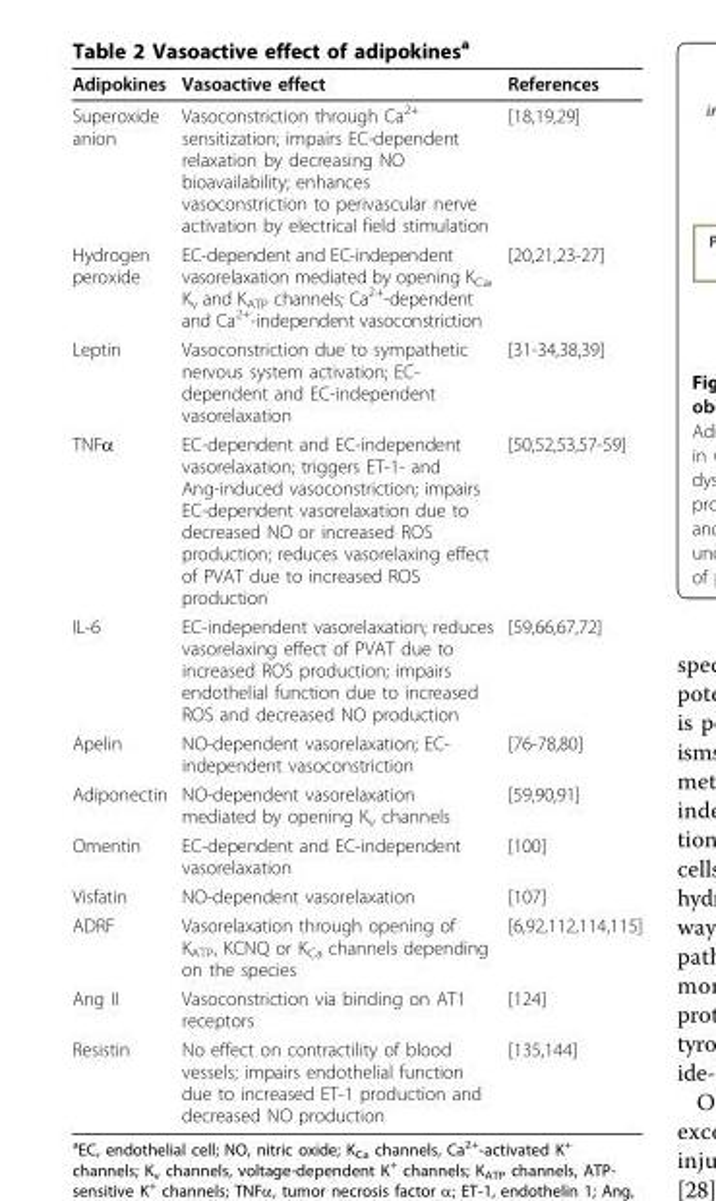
<table><thead><tr><td>Adipokines</td><td>Vasoactive effect</td><td>References</td></tr></thead><tbody><tr><td>Superoxide anion</td><td>Vasoconstriction through Ca<sup>2+</sup> sensitization; impairs EC-dependent relaxation by decreasing NO bioavailability; enhances vasoconstriction to perivascular nerve activation by electrical field stimulation</td><td>[18,19,29]</td></tr><tr><td>Hydrogen peroxide</td><td>EC-dependent and EC-independent vasorelaxation mediated by opening K<sub>Ca</sub>, K<sub>v</sub> and K<sub>ATP</sub> channels; Ca<sup>2+</sup>-dependent and Ca<sup>2+</sup>-independent vasoconstriction</td><td>[20,21,23-27]</td></tr><tr><td>Leptin</td><td>Vasoconstriction due to sympathetic nervous system activation; EC- dependent and EC-independent vasorelaxation</td><td>[31-34,38,39]</td></tr><tr><td>TNFα</td><td>EC-dependent and EC-independent vasorelaxation; triggers ET-1- and Ang-induced vasoconstriction; impairs EC-dependent vasorelaxation due to decreased NO or increased ROS production; reduces vasorelaxing effect of PVAT due to increased ROS production</td><td>[50,52,53,57-59]</td></tr><tr><td>IL-6</td><td>EC-independent vasorelaxation; reduces vasorelaxing effect of PVAT due to increased ROS production; impairs endothelial function due to increased ROS and decreased NO production</td><td>[59,66,67,72]</td></tr><tr><td>Apelin</td><td>NO-dependent vasorelaxation; EC- independent vasoconstriction</td><td>[76-78,80]</td></tr><tr><td>Adiponectin</td><td>NO-dependent vasorelaxation mediated by opening K<sub>v</sub> channels</td><td>[59,90,91]</td></tr><tr><td>Omentin</td><td>EC-dependent and EC-independent vasorelaxation</td><td>[100]</td></tr><tr><td>Visfatin</td><td>NO-dependent vasorelaxation</td><td>[107]</td></tr><tr><td>ADRF</td><td>Vasorelaxation through opening of K<sub>ATP</sub>, KCNQ or K<sub>Ca</sub> channels depending on the species</td><td>[6,92,112,114,115]</td></tr><tr><td>Ang II</td><td>Vasoconstriction via binding on AT1 receptors</td><td>[124]</td></tr><tr><td>Resistin</td><td>No effect on contractility of blood vessels; impairs endothelial function due to increased ET-1 production and decreased NO production</td><td>[135,144]</td></tr></tbody></table>